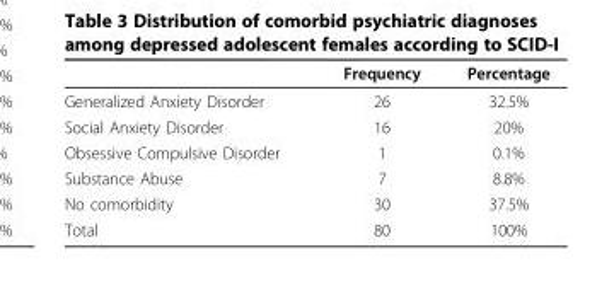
<table><thead><tr><td></td><td>Frequency</td><td>Percentage</td></tr></thead><tbody><tr><td>Generalized Anxiety Disorder</td><td>26</td><td>32.5%</td></tr><tr><td>Social Anxiety Disorder</td><td>16</td><td>20%</td></tr><tr><td>Obsessive Compulsive Disorder</td><td>1</td><td>0.1%</td></tr><tr><td>Substance Abuse</td><td>7</td><td>8.8%</td></tr><tr><td>No comorbidity</td><td>30</td><td>37.5%</td></tr><tr><td>Total</td><td>80</td><td>100%</td></tr></tbody></table>